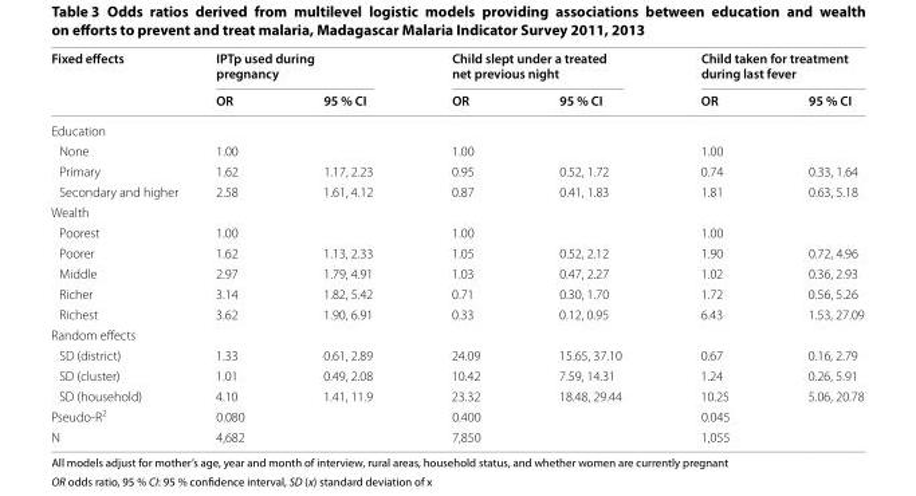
<table><thead><tr><td rowspan="2">Fixed effects</td><td colspan="2">IPTp used during pregnancy</td><td colspan="2">Child slept under a treated net previous night</td><td colspan="2">Child taken for treatment during last fever</td></tr><tr><td>OR</td><td>95 % CI</td><td>OR</td><td>95 % CI</td><td>OR</td><td>95 % CI</td></tr></thead><tbody><tr><td colspan="7">Education</td></tr><tr><td>None</td><td>1.00</td><td></td><td>1.00</td><td></td><td>1.00</td><td></td></tr><tr><td>Primary</td><td>1.62</td><td>1.17, 2.23</td><td>0.95</td><td>0.52, 1.72</td><td>0.74</td><td>0.33, 1.64</td></tr><tr><td>Secondary and higher</td><td>2.58</td><td>1.61, 4.12</td><td>0.87</td><td>0.41, 1.83</td><td>1.81</td><td>0.63, 5.18</td></tr><tr><td colspan="7">Wealth</td></tr><tr><td>Poorest</td><td>1.00</td><td></td><td>1.00</td><td></td><td>1.00</td><td></td></tr><tr><td>Poorer</td><td>1.62</td><td>1.13, 2.33</td><td>1.05</td><td>0.52, 2.12</td><td>1.90</td><td>0.72, 4.96</td></tr><tr><td>Middle</td><td>2.97</td><td>1.79, 4.91</td><td>1.03</td><td>0.47, 2.27</td><td>1.02</td><td>0.36, 2.93</td></tr><tr><td>Richer</td><td>3.14</td><td>1.82, 5.42</td><td>0.71</td><td>0.30, 1.70</td><td>1.72</td><td>0.56, 5.26</td></tr><tr><td>Richest</td><td>3.62</td><td>1.90, 6.91</td><td>0.33</td><td>0.12, 0.95</td><td>6.43</td><td>1.53, 27.09</td></tr><tr><td colspan="7">Random effects</td></tr><tr><td>SD (district)</td><td>1.33</td><td>0.61, 2.89</td><td>24.09</td><td>15.65, 37.10</td><td>0.67</td><td>0.16, 2.79</td></tr><tr><td>SD (cluster)</td><td>1.01</td><td>0.49, 2.08</td><td>10.42</td><td>7.59, 14.31</td><td>1.24</td><td>0.26, 5.91</td></tr><tr><td>SD (household)</td><td>4.10</td><td>1.41, 11.9</td><td>23.32</td><td>18.48, 29.44</td><td>10.25</td><td>5.06, 20.78</td></tr><tr><td>Pseudo-R<sup>2</sup></td><td>0.080</td><td></td><td>0.400</td><td></td><td>0.045</td><td></td></tr><tr><td>N</td><td>4,682</td><td></td><td>7,850</td><td></td><td>1,055</td><td></td></tr></tbody></table>